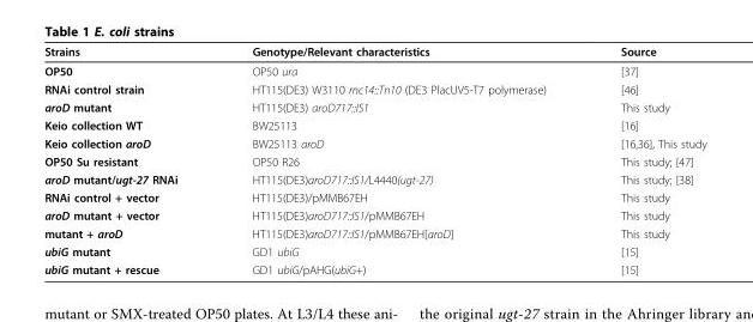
<table><thead><tr><td>Strains</td><td>Genotype/Relevant characteristics</td><td>Source</td></tr></thead><tbody><tr><td>OP50</td><td>OP50 ura</td><td>[37]</td></tr><tr><td>RNAi control strain</td><td>HT115(DE3) W3110 rnc14::Tn10 (DE3 PlacUV5-T7 polymerase)</td><td>[46]</td></tr><tr><td>aroD mutant</td><td>HT115(DE3) aroD717::IS1</td><td>This study</td></tr><tr><td>Keio collection WT</td><td>BW25113</td><td>[16]</td></tr><tr><td>Keio collection aroD</td><td>BW25113 aroD</td><td>[16,36], This study</td></tr><tr><td>OP50 Su resistant</td><td>OP50 R26</td><td>This study; [47]</td></tr><tr><td>aroD mutant/ugt-27 RNAi</td><td>HT115(DE3)aroD717::IS1/L4440(ugt-27)</td><td>This study; [38]</td></tr><tr><td>RNAi control + vector</td><td>HT115(DE3)/pMMB67EH</td><td>This study</td></tr><tr><td>aroD mutant + vector</td><td>HT115(DE3)aroD717::IS1/pMMB67EH</td><td>This study</td></tr><tr><td>mutant + aroD</td><td>HT115(DE3)aroD717::IS1/pMMB67EH[aroD]</td><td>This study</td></tr><tr><td>ubiG mutant</td><td>GD1 ubiG</td><td>[15]</td></tr><tr><td>ubiG mutant + rescue</td><td>GD1 ubiG/pAHG(ubiG+)</td><td>[15]</td></tr></tbody></table>